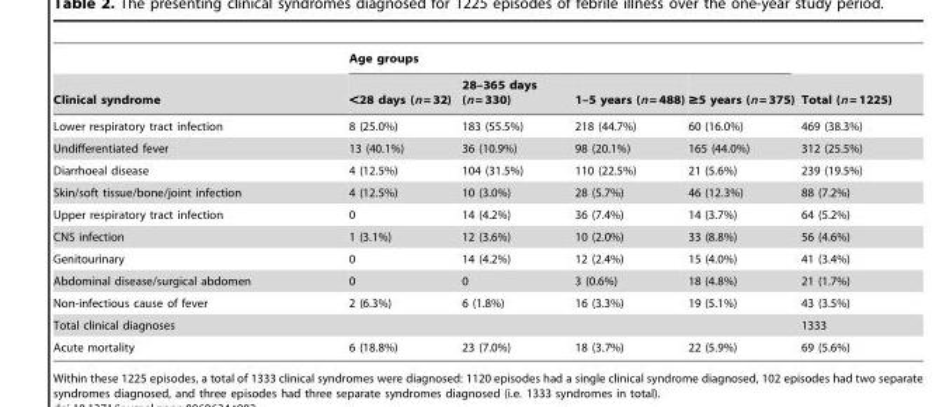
<table><thead><tr><td rowspan="2">Clinical syndrome</td><td colspan="4">Age groups</td><td rowspan="2">Total (n = 1225)</td></tr><tr><td>&lt;28 days (n = 32)</td><td>28–365 days (n = 330)</td><td>1–5 years (n = 488)</td><td>≥5 years (n = 375)</td></tr></thead><tbody><tr><td>Lower respiratory tract infection</td><td>8 (25.0%)</td><td>183 (55.5%)</td><td>218 (44.7%)</td><td>60 (16.0%)</td><td>469 (38.3%)</td></tr><tr><td>Undifferentiated fever</td><td>13 (40.1%)</td><td>36 (10.9%)</td><td>98 (20.1%)</td><td>165 (44.0%)</td><td>312 (25.5%)</td></tr><tr><td>Diarrhoeal disease</td><td>4 (12.5%)</td><td>104 (31.5%)</td><td>110 (22.5%)</td><td>21 (5.6%)</td><td>239 (19.5%)</td></tr><tr><td>Skin/soft tissue/bone/joint infection</td><td>4 (12.5%)</td><td>10 (3.0%)</td><td>28 (5.7%)</td><td>46 (12.3%)</td><td>88 (7.2%)</td></tr><tr><td>Upper respiratory tract infection</td><td>0</td><td>14 (4.2%)</td><td>36 (7.4%)</td><td>14 (3.7%)</td><td>64 (5.2%)</td></tr><tr><td>CNS infection</td><td>1 (3.1%)</td><td>12 (3.6%)</td><td>10 (2.0%)</td><td>33 (8.8%)</td><td>56 (4.6%)</td></tr><tr><td>Genitourinary</td><td>0</td><td>14 (4.2%)</td><td>12 (2.4%)</td><td>15 (4.0%)</td><td>41 (3.4%)</td></tr><tr><td>Abdominal disease/surgical abdomen</td><td>0</td><td>0</td><td>3 (0.6%)</td><td>18 (4.8%)</td><td>21 (1.7%)</td></tr><tr><td>Non-infectious cause of fever</td><td>2 (6.3%)</td><td>6 (1.8%)</td><td>16 (3.3%)</td><td>19 (5.1%)</td><td>43 (3.5%)</td></tr><tr><td colspan="5">Total clinical diagnoses</td><td>1333</td></tr><tr><td>Acute mortality</td><td>6 (18.8%)</td><td>23 (7.0%)</td><td>18 (3.7%)</td><td>22 (5.9%)</td><td>69 (5.6%)</td></tr></tbody></table>